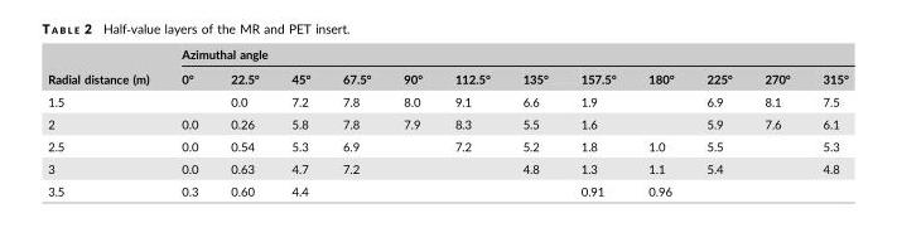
<table><thead><tr><td rowspan="2">Radial distance (m)</td><td colspan="12">Azimuthal angle</td></tr><tr><td>0°</td><td>22.5°</td><td>45°</td><td>67.5°</td><td>90°</td><td>112.5°</td><td>135°</td><td>157.5°</td><td>180°</td><td>225°</td><td>270°</td><td>315°</td></tr></thead><tbody><tr><td>1.5</td><td></td><td>0.0</td><td>7.2</td><td>7.8</td><td>8.0</td><td>9.1</td><td>6.6</td><td>1.9</td><td></td><td>6.9</td><td>8.1</td><td>7.5</td></tr><tr><td>2</td><td>0.0</td><td>0.26</td><td>5.8</td><td>7.8</td><td>7.9</td><td>8.3</td><td>5.5</td><td>1.6</td><td></td><td>5.9</td><td>7.6</td><td>6.1</td></tr><tr><td>2.5</td><td>0.0</td><td>0.54</td><td>5.3</td><td>6.9</td><td></td><td>7.2</td><td>5.2</td><td>1.8</td><td>1.0</td><td>5.5</td><td></td><td>5.3</td></tr><tr><td>3</td><td>0.0</td><td>0.63</td><td>4.7</td><td>7.2</td><td></td><td></td><td>4.8</td><td>1.3</td><td>1.1</td><td>5.4</td><td></td><td>4.8</td></tr><tr><td>3.5</td><td>0.3</td><td>0.60</td><td>4.4</td><td></td><td></td><td></td><td></td><td>0.91</td><td>0.96</td><td></td><td></td><td></td></tr></tbody></table>